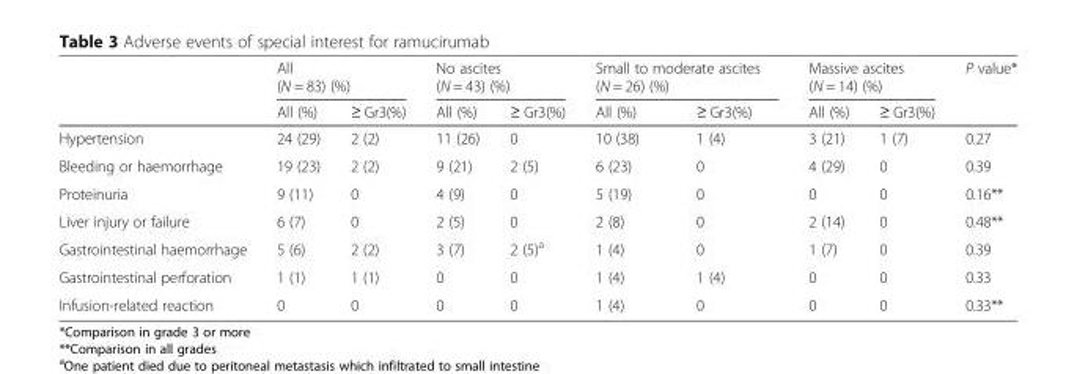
<table><thead><tr><td rowspan="2"></td><td colspan="2">All (N = 83) (%)</td><td colspan="2">No ascites (N = 43) (%)</td><td colspan="2">Small to moderate ascites (N = 26) (%)</td><td colspan="2">Massive ascites (N = 14) (%)</td><td rowspan="2">P value*</td></tr><tr><td>All (%)</td><td>≥ Gr3(%)</td><td>All (%)</td><td>≥ Gr3(%)</td><td>All (%)</td><td>≥ Gr3(%)</td><td>All (%)</td><td>≥ Gr3(%)</td></tr></thead><tbody><tr><td>Hypertension</td><td>24 (29)</td><td>2 (2)</td><td>11 (26)</td><td>0</td><td>10 (38)</td><td>1 (4)</td><td>3 (21)</td><td>1 (7)</td><td>0.27</td></tr><tr><td>Bleeding or haemorrhage</td><td>19 (23)</td><td>2 (2)</td><td>9 (21)</td><td>2 (5)</td><td>6 (23)</td><td>0</td><td>4 (29)</td><td>0</td><td>0.39</td></tr><tr><td>Proteinuria</td><td>9 (11)</td><td>0</td><td>4 (9)</td><td>0</td><td>5 (19)</td><td>0</td><td>0</td><td>0</td><td>0.16**</td></tr><tr><td>Liver injury or failure</td><td>6 (7)</td><td>0</td><td>2 (5)</td><td>0</td><td>2 (8)</td><td>0</td><td>2 (14)</td><td>0</td><td>0.48**</td></tr><tr><td>Gastrointestinal haemorrhage</td><td>5 (6)</td><td>2 (2)</td><td>3 (7)</td><td>2 (5)<sup>a</sup></td><td>1 (4)</td><td>0</td><td>1 (7)</td><td>0</td><td>0.39</td></tr><tr><td>Gastrointestinal perforation</td><td>1 (1)</td><td>1 (1)</td><td>0</td><td>0</td><td>1 (4)</td><td>1 (4)</td><td>0</td><td>0</td><td>0.33</td></tr><tr><td>Infusion-related reaction</td><td>0</td><td>0</td><td>0</td><td>0</td><td>1 (4)</td><td>0</td><td>0</td><td>0</td><td>0.33**</td></tr></tbody></table>